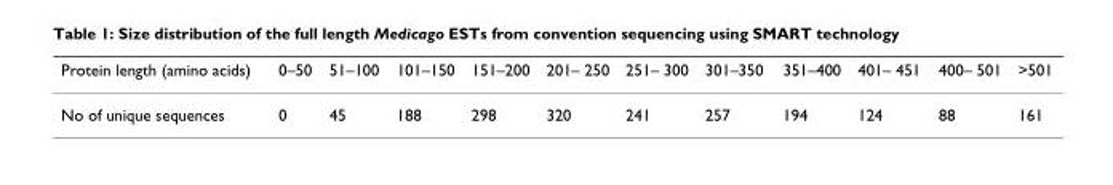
<table><thead><tr><td>Protein length (amino acids)</td><td>0–50</td><td>51–100</td><td>101–150</td><td>151–200</td><td>201– 250</td><td>251– 300</td><td>301–350</td><td>351–400</td><td>401– 451</td><td>400– 501</td><td>&gt;501</td></tr></thead><tbody><tr><td>No of unique sequences</td><td>0</td><td>45</td><td>188</td><td>298</td><td>320</td><td>241</td><td>257</td><td>194</td><td>124</td><td>88</td><td>161</td></tr></tbody></table>